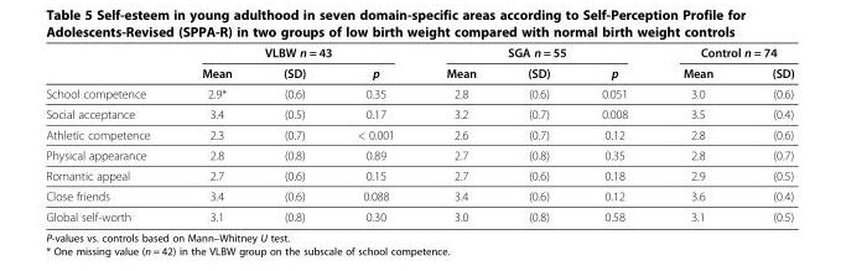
<table><thead><tr><td rowspan="2"></td><td colspan="3">VLBW n = 43</td><td colspan="3">SGA n = 55</td><td colspan="2">Control n = 74</td></tr><tr><td>Mean</td><td>(SD)</td><td>p</td><td>Mean</td><td>(SD)</td><td>p</td><td>Mean</td><td>(SD)</td></tr></thead><tbody><tr><td>School competence</td><td>2.9*</td><td>(0.6)</td><td>0.35</td><td>2.8</td><td>(0.6)</td><td>0.051</td><td>3.0</td><td>(0.6)</td></tr><tr><td>Social acceptance</td><td>3.4</td><td>(0.5)</td><td>0.17</td><td>3.2</td><td>(0.7)</td><td>0.008</td><td>3.5</td><td>(0.4)</td></tr><tr><td>Athletic competence</td><td>2.3</td><td>(0.7)</td><td>&lt; 0.001</td><td>2.6</td><td>(0.7)</td><td>0.12</td><td>2.8</td><td>(0.6)</td></tr><tr><td>Physical appearance</td><td>2.8</td><td>(0.8)</td><td>0.89</td><td>2.7</td><td>(0.8)</td><td>0.35</td><td>2.8</td><td>(0.7)</td></tr><tr><td>Romantic appeal</td><td>2.7</td><td>(0.6)</td><td>0.15</td><td>2.7</td><td>(0.6)</td><td>0.18</td><td>2.9</td><td>(0.5)</td></tr><tr><td>Close friends</td><td>3.4</td><td>(0.6)</td><td>0.088</td><td>3.4</td><td>(0.6)</td><td>0.12</td><td>3.6</td><td>(0.4)</td></tr><tr><td>Global self-worth</td><td>3.1</td><td>(0.8)</td><td>0.30</td><td>3.0</td><td>(0.8)</td><td>0.58</td><td>3.1</td><td>(0.5)</td></tr></tbody></table>